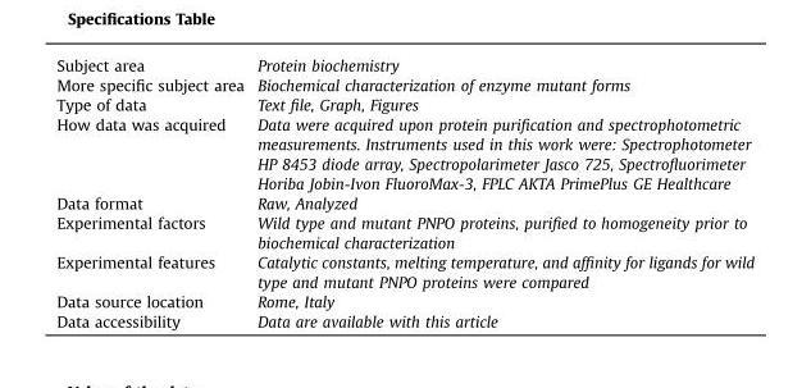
<table><tbody><tr><td>Subject area</td><td>Protein biochemistry</td></tr><tr><td>More specific subject area</td><td>Biochemical characterization of enzyme mutant forms</td></tr><tr><td>Type of data</td><td>Text file, Graph, Figures</td></tr><tr><td>How data was acquired</td><td>Data were acquired upon protein purification and spectrophotometric measurements. Instruments used in this work were: Spectrophotometer HP 8453 diode array, Spectropolarimeter Jasco 725, Spectrofluorimeter Horiba Jobin-Ivon FluoroMax-3, FPLC AKTA PrimePlus GE Healthcare</td></tr><tr><td>Data format</td><td>Raw, Analyzed</td></tr><tr><td>Experimental factors</td><td>Wild type and mutant PNPO proteins, purified to homogeneity prior to biochemical characterization</td></tr><tr><td>Experimental features</td><td>Catalytic constants, melting temperature, and affinity for ligands for wild type and mutant PNPO proteins were compared</td></tr><tr><td>Data source location</td><td>Rome, Italy</td></tr><tr><td>Data accessibility</td><td>Data are available with this article</td></tr></tbody></table>